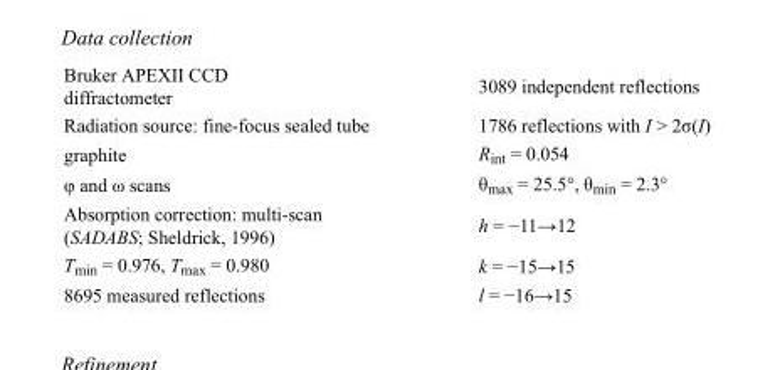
<table><tbody><tr><td>Bruker APEXII CCD diffractometer</td><td>3089 independent reflections</td></tr><tr><td>Radiation source: fine-focus sealed tube</td><td>1786 reflections with I &gt; 2σ(I)</td></tr><tr><td>graphite</td><td>R<sub>int</sub> = 0.054</td></tr><tr><td>φ and ω scans</td><td>θ<sub>max</sub> = 25.5°, θ<sub>min</sub> = 2.3°</td></tr><tr><td>Absorption correction: multi-scan (SADABS; Sheldrick, 1996)</td><td>h = −11→12</td></tr><tr><td>T<sub>min</sub> = 0.976, T<sub>max</sub> = 0.980</td><td>k = −15→15</td></tr><tr><td>8695 measured reflections</td><td>l = −16→15</td></tr></tbody></table>